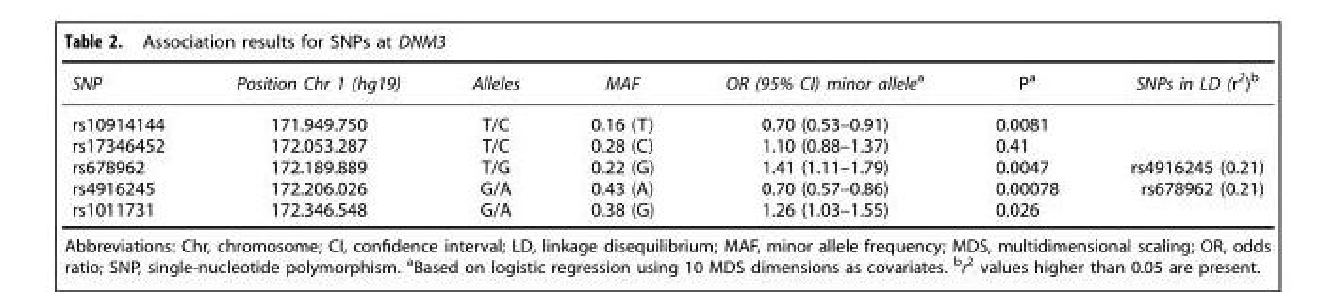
<table><thead><tr><td>SNP</td><td>Position Chr 1 (hg19)</td><td>Alleles</td><td>MAF</td><td>OR (95% CI) minor allele<sup>a</sup></td><td>P<sup>a</sup></td><td>SNPs in LD (r<sup>2</sup>)<sup>b</sup></td></tr></thead><tbody><tr><td>rs10914144</td><td>171.949.750</td><td>T/C</td><td>0.16 (T)</td><td>0.70 (0.53–0.91)</td><td>0.0081</td><td></td></tr><tr><td>rs17346452</td><td>172.053.287</td><td>T/C</td><td>0.28 (C)</td><td>1.10 (0.88–1.37)</td><td>0.41</td><td></td></tr><tr><td>rs678962</td><td>172.189.889</td><td>T/G</td><td>0.22 (G)</td><td>1.41 (1.11–1.79)</td><td>0.0047</td><td>rs4916245 (0.21)</td></tr><tr><td>rs4916245</td><td>172.206.026</td><td>G/A</td><td>0.43 (A)</td><td>0.70 (0.57–0.86)</td><td>0.00078</td><td>rs678962 (0.21)</td></tr><tr><td>rs1011731</td><td>172.346.548</td><td>G/A</td><td>0.38 (G)</td><td>1.26 (1.03–1.55)</td><td>0.026</td><td></td></tr></tbody></table>